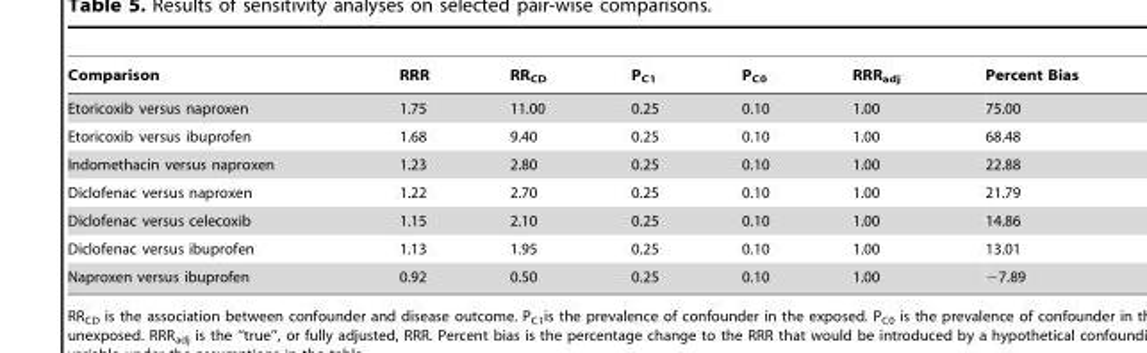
<table><thead><tr><td>Comparison</td><td>RRR</td><td>RR<sub>CD</sub></td><td>P<sub>C1</sub></td><td>P<sub>C0</sub></td><td>RRR<sub>adj</sub></td><td>Percent Bias</td></tr></thead><tbody><tr><td>Etoricoxib versus naproxen</td><td>1.75</td><td>11.00</td><td>0.25</td><td>0.10</td><td>1.00</td><td>75.00</td></tr><tr><td>Etoricoxib versus ibuprofen</td><td>1.68</td><td>9.40</td><td>0.25</td><td>0.10</td><td>1.00</td><td>68.48</td></tr><tr><td>Indomethacin versus naproxen</td><td>1.23</td><td>2.80</td><td>0.25</td><td>0.10</td><td>1.00</td><td>22.88</td></tr><tr><td>Diclofenac versus naproxen</td><td>1.22</td><td>2.70</td><td>0.25</td><td>0.10</td><td>1.00</td><td>21.79</td></tr><tr><td>Diclofenac versus celecoxib</td><td>1.15</td><td>2.10</td><td>0.25</td><td>0.10</td><td>1.00</td><td>14.86</td></tr><tr><td>Diclofenac versus ibuprofen</td><td>1.13</td><td>1.95</td><td>0.25</td><td>0.10</td><td>1.00</td><td>13.01</td></tr><tr><td>Naproxen versus ibuprofen</td><td>0.92</td><td>0.50</td><td>0.25</td><td>0.10</td><td>1.00</td><td>−7.89</td></tr></tbody></table>